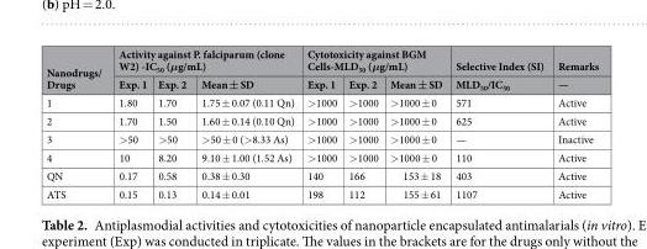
<table><thead><tr><td rowspan="2">Nanodrugs/ Drugs</td><td colspan="3">Activity against P. falciparum (clone W2) -IC<sub>50</sub> (μg/mL)</td><td colspan="3">Cytotoxicity against BGM Cells-MLD<sub>50</sub> (μg/mL)</td><td rowspan="2">Selective Index (SI) MLD<sub>50</sub>/IC<sub>50</sub></td><td rowspan="2">Remarks —</td></tr><tr><td>Exp. 1</td><td>Exp. 2</td><td>Mean ± SD</td><td>Exp. 1</td><td>Exp. 2</td><td>Mean ± SD</td></tr></thead><tbody><tr><td>1</td><td>1.80</td><td>1.70</td><td>1.75 ± 0.07 (0.11 Qn)</td><td>&gt;1000</td><td>&gt;1000</td><td>&gt;1000 ± 0</td><td>571</td><td>Active</td></tr><tr><td>2</td><td>1.70</td><td>1.50</td><td>1.60 ± 0.14 (0.10 Qn)</td><td>&gt;1000</td><td>&gt;1000</td><td>&gt;1000 ± 0</td><td>625</td><td>Active</td></tr><tr><td>3</td><td>&gt;50</td><td>&gt;50</td><td>&gt;50 ± 0 (&gt;8.33 As)</td><td>&gt;1000</td><td>&gt;1000</td><td>&gt;1000 ± 0</td><td>—</td><td>Inactive</td></tr><tr><td>4</td><td>10</td><td>8.20</td><td>9.10 ± 1.00 (1.52 As)</td><td>&gt;1000</td><td>&gt;1000</td><td>&gt;1000 ± 0</td><td>110</td><td>Active</td></tr><tr><td>QN</td><td>0.17</td><td>0.58</td><td>0.38 ± 0.30</td><td>140</td><td>166</td><td>153 ± 18</td><td>403</td><td>Active</td></tr><tr><td>ATS</td><td>0.15</td><td>0.13</td><td>0.14 ± 0.01</td><td>198</td><td>112</td><td>155 ± 61</td><td>1107</td><td>Active</td></tr></tbody></table>